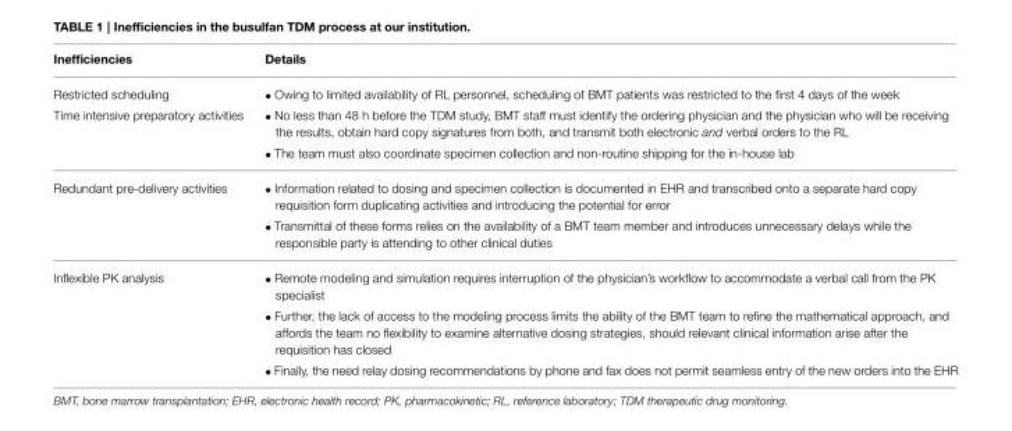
<table><thead><tr><td>Inefficiencies</td><td>Details</td></tr></thead><tbody><tr><td>Restricted scheduling</td><td>• Owing to limited availability of RL personnel, scheduling of BMT patients was restricted to the first 4 days of the week</td></tr><tr><td rowspan="2">Time intensive preparatory activities</td><td>• No less than 48 h before the TDM study, BMT staff must identify the ordering physician and the physician who will be receiving the results, obtain hard copy signatures from both, and transmit both electronic and verbal orders to the RL</td></tr><tr><td>• The team must also coordinate specimen collection and non-routine shipping for the in-house lab</td></tr><tr><td rowspan="2">Redundant pre-delivery activities</td><td>• Information related to dosing and specimen collection is documented in EHR and transcribed onto a separate hard copy requisition form duplicating activities and introducing the potential for error</td></tr><tr><td>• Transmittal of these forms relies on the availability of a BMT team member and introduces unnecessary delays while the responsible party is attending to other clinical duties</td></tr><tr><td rowspan="3">Inflexible PK analysis</td><td>• Remote modeling and simulation requires interruption of the physician’s workflow to accommodate a verbal call from the PK specialist</td></tr><tr><td>• Further, the lack of access to the modeling process limits the ability of the BMT team to refine the mathematical approach, and affords the team no flexibility to examine alternative dosing strategies, should relevant clinical information arise after the requisition has closed</td></tr><tr><td>• Finally, the need relay dosing recommendations by phone and fax does not permit seamless entry of the new orders into the EHR</td></tr></tbody></table>